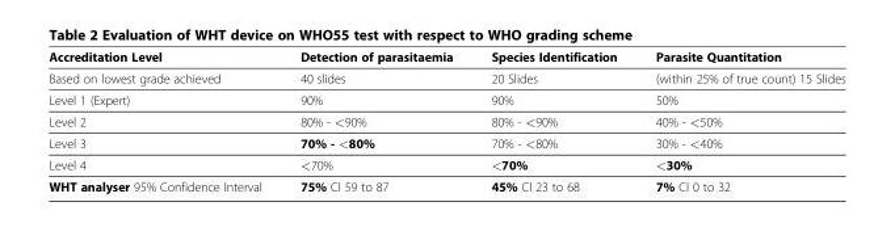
<table><thead><tr><td>Accreditation Level</td><td>Detection of parasitaemia</td><td>Species Identification</td><td>Parasite Quantitation</td></tr></thead><tbody><tr><td>Based on lowest grade achieved</td><td>40 slides</td><td>20 Slides</td><td>(within 25% of true count) 15 Slides</td></tr><tr><td>Level 1 (Expert)</td><td>90%</td><td>90%</td><td>50%</td></tr><tr><td>Level 2</td><td>80% - &lt;90%</td><td>80% - &lt;90%</td><td>40% - &lt;50%</td></tr><tr><td>Level 3</td><td>70% - &lt;80%</td><td>70% - &lt;80%</td><td>30% - &lt;40%</td></tr><tr><td>Level 4</td><td>&lt;70%</td><td>&lt;70%</td><td>&lt;30%</td></tr><tr><td>WHT analyser 95% Confidence Interval</td><td>75% CI 59 to 87</td><td>45% CI 23 to 68</td><td>7% CI 0 to 32</td></tr></tbody></table>